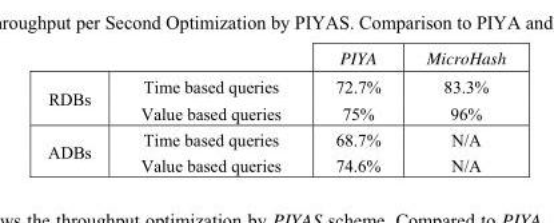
<table><thead><tr><td></td><td></td><td>PIYA</td><td>MicroHash</td></tr></thead><tbody><tr><td>RDBs</td><td>Time based queries Value based queries</td><td>72.7% 75%</td><td>83.3% 96%</td></tr><tr><td>ADBs</td><td>Time based queries Value based queries</td><td>68.7% 74.6%</td><td>N/A N/A</td></tr></tbody></table>